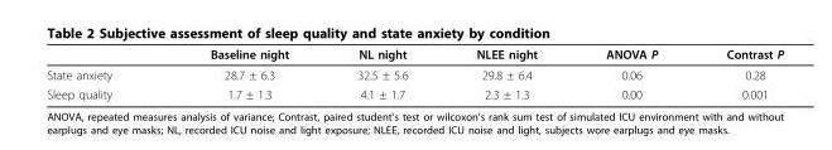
<table><thead><tr><td></td><td>Baseline night</td><td>NL night</td><td>NLEE night</td><td>ANOVA P</td><td>Contrast P</td></tr></thead><tbody><tr><td>State anxiety</td><td>28.7 ± 6.3</td><td>32.5 ± 5.6</td><td>29.8 ± 6.4</td><td>0.06</td><td>0.28</td></tr><tr><td>Sleep quality</td><td>1.7 ± 1.3</td><td>4.1 ± 1.7</td><td>2.3 ± 1.3</td><td>0.00</td><td>0.001</td></tr></tbody></table>